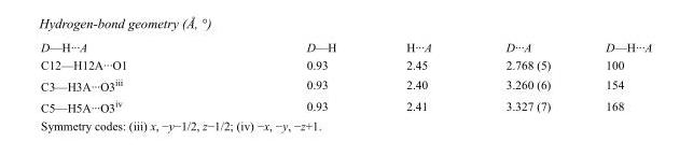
<table><tbody><tr><td>D—H···A</td><td>D—H</td><td>H···A</td><td>D···A</td><td>D—H···A</td></tr><tr><td>C12—H12A···O1</td><td>0.93</td><td>2.45</td><td>2.768 (5)</td><td>100</td></tr><tr><td>C3—H3A···O3<sup>iii</sup></td><td>0.93</td><td>2.40</td><td>3.260 (6)</td><td>154</td></tr><tr><td>C5—H5A···O3<sup>iv</sup></td><td>0.93</td><td>2.41</td><td>3.327 (7)</td><td>168</td></tr></tbody></table>